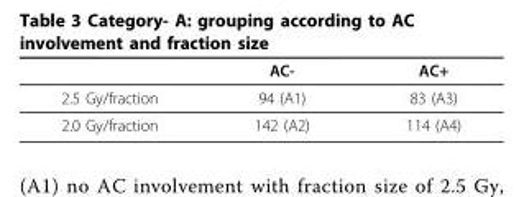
<table><thead><tr><td></td><td>AC-</td><td>AC+</td></tr></thead><tbody><tr><td>2.5 Gy/fraction</td><td>94 (A1)</td><td>83 (A3)</td></tr><tr><td>2.0 Gy/fraction</td><td>142 (A2)</td><td>114 (A4)</td></tr></tbody></table>